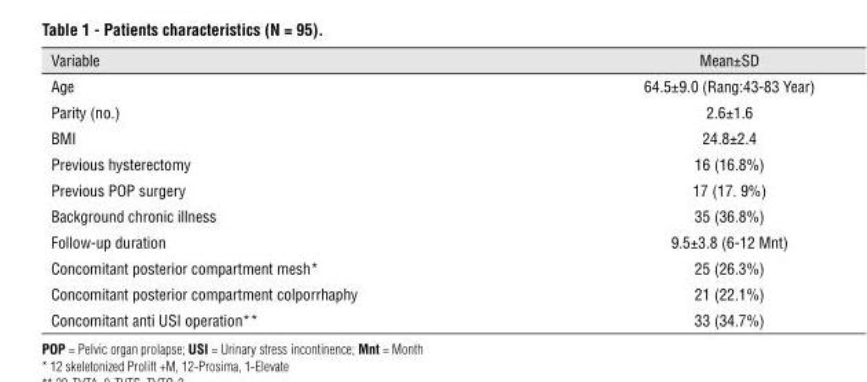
<table><thead><tr><td>Variable</td><td>Mean±SD</td></tr></thead><tbody><tr><td>Age</td><td>64.5±9.0 (Rang:43-83 Year)</td></tr><tr><td>Parity (no.)</td><td>2.6±1.6</td></tr><tr><td>BMI</td><td>24.8±2.4</td></tr><tr><td>Previous hysterectomy</td><td>16 (16.8%)</td></tr><tr><td>Previous POP surgery</td><td>17 (17. 9%)</td></tr><tr><td>Background chronic illness</td><td>35 (36.8%)</td></tr><tr><td>Follow-up duration</td><td>9.5±3.8 (6-12 Mnt)</td></tr><tr><td>Concomitant posterior compartment mesh*</td><td>25 (26.3%)</td></tr><tr><td>Concomitant posterior compartment colporrhaphy</td><td>21 (22.1%)</td></tr><tr><td>Concomitant anti USI operation**</td><td>33 (34.7%)</td></tr></tbody></table>